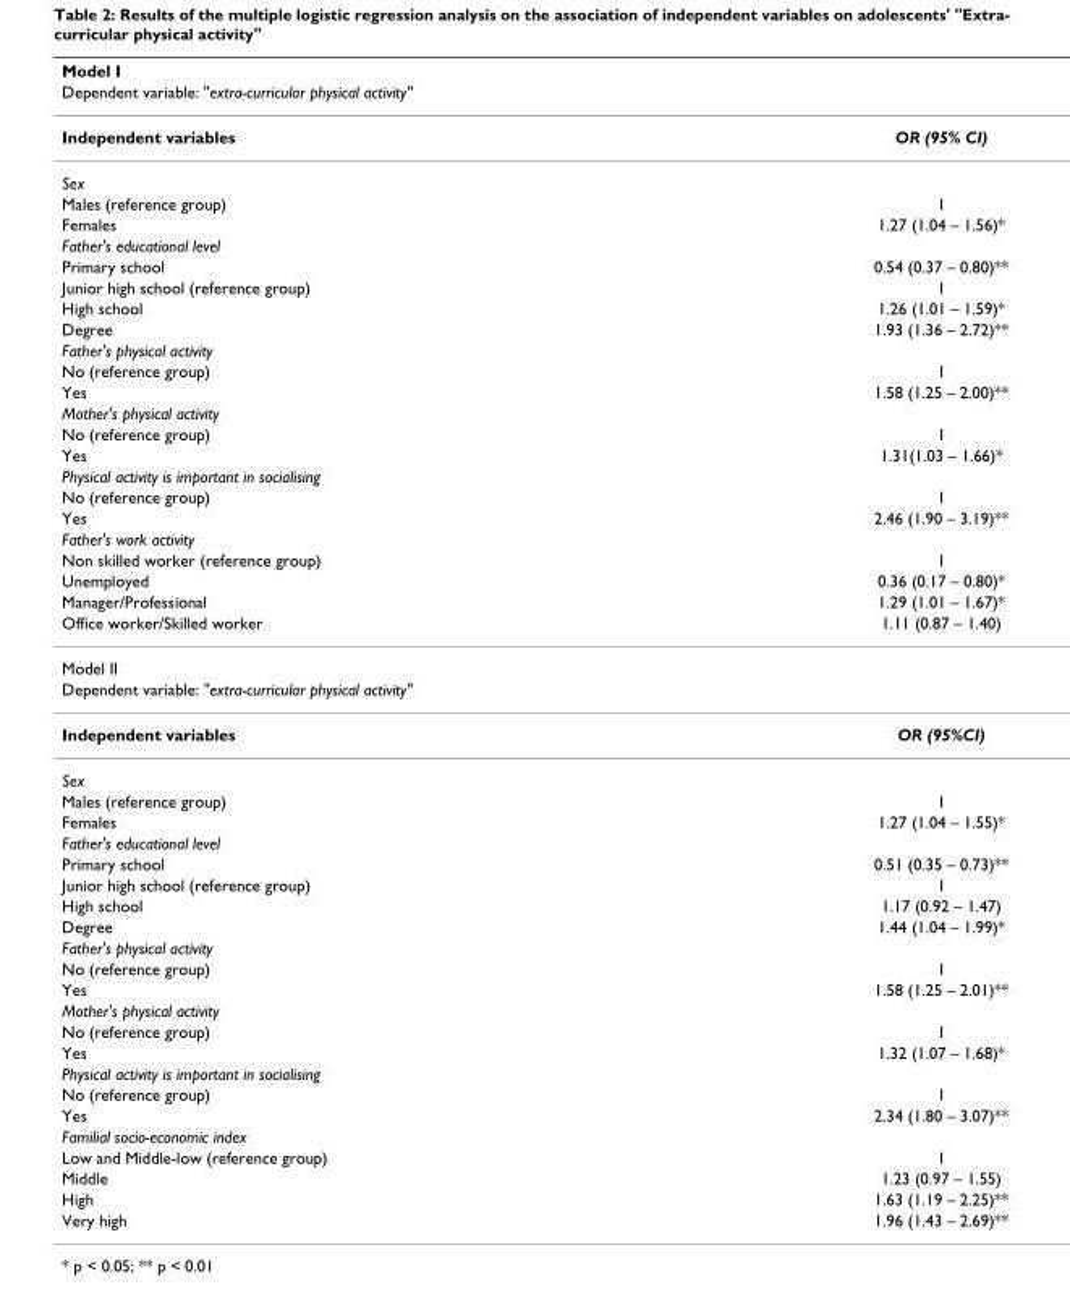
<table><thead><tr><td rowspan="2" colspan="2">Model I Dependent variable: &quot;extra-curricular physical activity&quot;</td></tr><tr></tr><tr><td>Independent variables</td><td>OR (95% CI)</td></tr></thead><tbody><tr><td colspan="2">Sex</td></tr><tr><td>Males (reference group)</td><td>1</td></tr><tr><td>Females</td><td>1.27 (1.04 – 1.56)*</td></tr><tr><td colspan="2">Father&#x27;s educational level</td></tr><tr><td>Primary school</td><td>0.54 (0.37 – 0.80)**</td></tr><tr><td>Junior high school (reference group)</td><td>1</td></tr><tr><td>High school</td><td>1.26 (1.01 – 1.59)*</td></tr><tr><td>Degree</td><td>1.93 (1.36 – 2.72)**</td></tr><tr><td colspan="2">Father&#x27;s physical activity</td></tr><tr><td>No (reference group)</td><td>1</td></tr><tr><td>Yes</td><td>1.58 (1.25 – 2.00)**</td></tr><tr><td colspan="2">Mother&#x27;s physical activity</td></tr><tr><td>No (reference group)</td><td>1</td></tr><tr><td>Yes</td><td>1.31(1.03 – 1.66)*</td></tr><tr><td colspan="2">Physical activity is important in socialising</td></tr><tr><td>No (reference group)</td><td>1</td></tr><tr><td>Yes</td><td>2.46 (1.90 – 3.19)**</td></tr><tr><td colspan="2">Father&#x27;s work activity</td></tr><tr><td>Non skilled worker (reference group)</td><td>1</td></tr><tr><td>Unemployed</td><td>0.36 (0.17 – 0.80)*</td></tr><tr><td>Manager/Professional</td><td>1.29 (1.01 – 1.67)*</td></tr><tr><td>Office worker/Skilled worker</td><td>1.11 (0.87 – 1.40)</td></tr><tr><td colspan="2">Model II</td></tr><tr><td colspan="2">Dependent variable: &quot;extra-curricular physical activity&quot;</td></tr><tr><td>Independent variables</td><td>OR (95%CI)</td></tr><tr><td colspan="2">Sex</td></tr><tr><td>Males (reference group)</td><td>1</td></tr><tr><td>Females</td><td>1.27 (1.04 – 1.55)*</td></tr><tr><td colspan="2">Father&#x27;s educational level</td></tr><tr><td>Primary school</td><td>0.51 (0.35 – 0.73)**</td></tr><tr><td>Junior high school (reference group)</td><td>1</td></tr><tr><td>High school</td><td>1.17 (0.92 – 1.47)</td></tr><tr><td>Degree</td><td>1.44 (1.04 – 1.99)*</td></tr><tr><td colspan="2">Father&#x27;s physical activity</td></tr><tr><td>No (reference group)</td><td>1</td></tr><tr><td>Yes</td><td>1.58 (1.25 – 2.01)**</td></tr><tr><td colspan="2">Mother&#x27;s physical activity</td></tr><tr><td>No (reference group)</td><td>1</td></tr><tr><td>Yes</td><td>1.32 (1.07 – 1.68)*</td></tr><tr><td colspan="2">Physical activity is important in socialising</td></tr><tr><td>No (reference group)</td><td>1</td></tr><tr><td>Yes</td><td>2.34 (1.80 – 3.07)**</td></tr><tr><td colspan="2">Familial socio-economic index</td></tr><tr><td>Low and Middle-low (reference group)</td><td>1</td></tr><tr><td>Middle</td><td>1.23 (0.97 – 1.55)</td></tr><tr><td>High</td><td>1.63 (1.19 – 2.25)**</td></tr><tr><td>Very high</td><td>1.96 (1.43 – 2.69)**</td></tr></tbody></table>